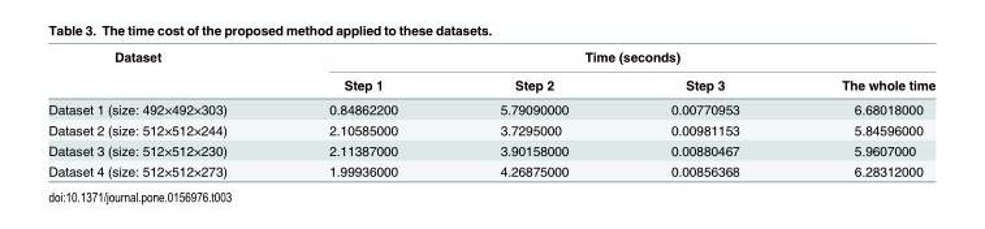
<table><thead><tr><td rowspan="2">Dataset</td><td colspan="4">Time (seconds)</td></tr><tr><td>Step 1</td><td>Step 2</td><td>Step 3</td><td>The whole time</td></tr></thead><tbody><tr><td>Dataset 1 (size: 492×492×303)</td><td>0.84862200</td><td>5.79090000</td><td>0.00770953</td><td>6.68018000</td></tr><tr><td>Dataset 2 (size: 512×512×244)</td><td>2.10585000</td><td>3.7295000</td><td>0.00981153</td><td>5.84596000</td></tr><tr><td>Dataset 3 (size: 512×512×230)</td><td>2.11387000</td><td>3.90158000</td><td>0.00880467</td><td>5.9607000</td></tr><tr><td>Dataset 4 (size: 512×512×273)</td><td>1.99936000</td><td>4.26875000</td><td>0.00856368</td><td>6.28312000</td></tr></tbody></table>